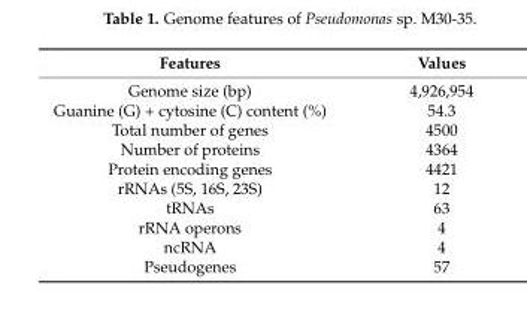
<table><thead><tr><td>Features</td><td>Values</td></tr></thead><tbody><tr><td>Genome size (bp)</td><td>4,926,954</td></tr><tr><td>Guanine (G) + cytosine (C) content (%)</td><td>54.3</td></tr><tr><td>Total number of genes</td><td>4500</td></tr><tr><td>Number of proteins</td><td>4364</td></tr><tr><td>Protein encoding genes</td><td>4421</td></tr><tr><td>rRNAs (5S, 16S, 23S)</td><td>12</td></tr><tr><td>tRNAs</td><td>63</td></tr><tr><td>rRNA operons</td><td>4</td></tr><tr><td>ncRNA</td><td>4</td></tr><tr><td>Pseudogenes</td><td>57</td></tr></tbody></table>